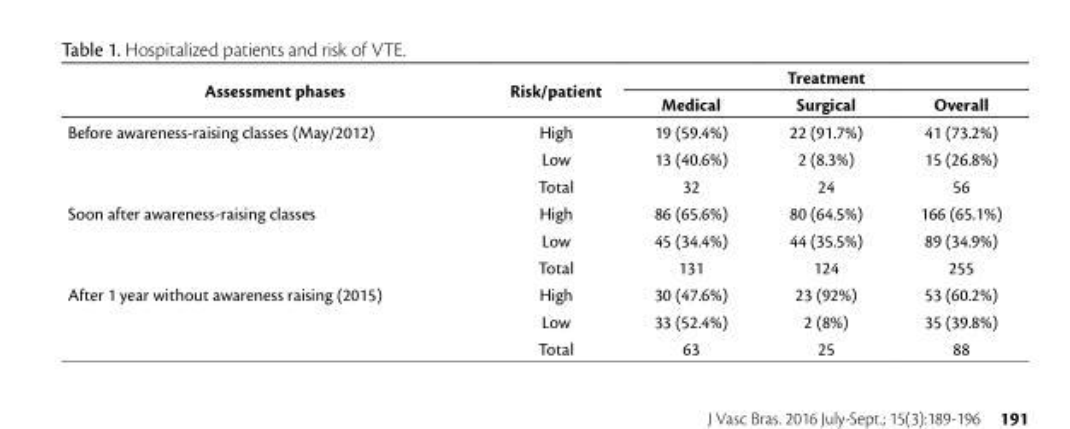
<table><thead><tr><td rowspan="2">Assessment phases</td><td rowspan="2">Risk/patient</td><td colspan="3">Treatment</td></tr><tr><td>Medical</td><td>Surgical</td><td>Overall</td></tr></thead><tbody><tr><td rowspan="3">Before awareness-raising classes (May/2012)</td><td>High</td><td>19 (59.4%)</td><td>22 (91.7%)</td><td>41 (73.2%)</td></tr><tr><td>Low</td><td>13 (40.6%)</td><td>2 (8.3%)</td><td>15 (26.8%)</td></tr><tr><td>Total</td><td>32</td><td>24</td><td>56</td></tr><tr><td rowspan="3">Soon after awareness-raising classes</td><td>High</td><td>86 (65.6%)</td><td>80 (64.5%)</td><td>166 (65.1%)</td></tr><tr><td>Low</td><td>45 (34.4%)</td><td>44 (35.5%)</td><td>89 (34.9%)</td></tr><tr><td>Total</td><td>131</td><td>124</td><td>255</td></tr><tr><td rowspan="3">After 1 year without awareness raising (2015)</td><td>High</td><td>30 (47.6%)</td><td>23 (92%)</td><td>53 (60.2%)</td></tr><tr><td>Low</td><td>33 (52.4%)</td><td>2 (8%)</td><td>35 (39.8%)</td></tr><tr><td>Total</td><td>63</td><td>25</td><td>88</td></tr></tbody></table>